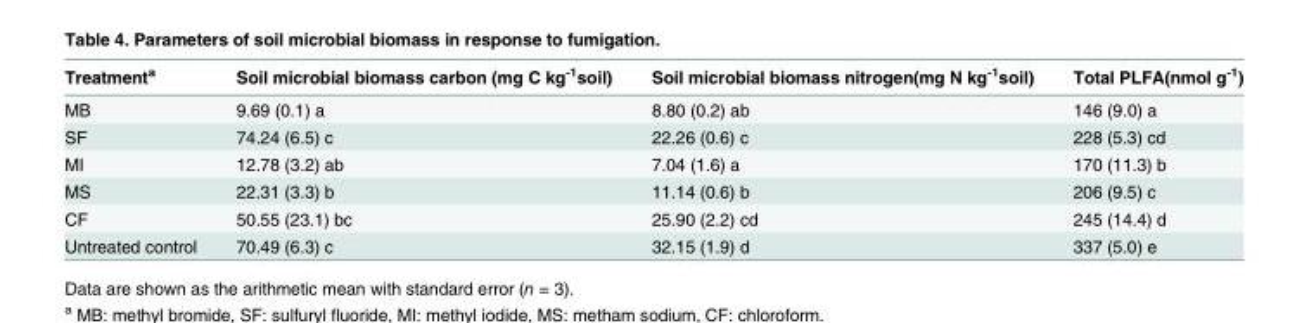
<table><thead><tr><td>Treatment<sup>a</sup></td><td>Soil microbial biomass carbon (mg C kg<sup>-1</sup>soil)</td><td>Soil microbial biomass nitrogen(mg N kg<sup>-1</sup>soil)</td><td>Total PLFA(nmol g<sup>-1</sup>)</td></tr></thead><tbody><tr><td>MB</td><td>9.69 (0.1) a</td><td>8.80 (0.2) ab</td><td>146 (9.0) a</td></tr><tr><td>SF</td><td>74.24 (6.5) c</td><td>22.26 (0.6) c</td><td>228 (5.3) cd</td></tr><tr><td>MI</td><td>12.78 (3.2) ab</td><td>7.04 (1.6) a</td><td>170 (11.3) b</td></tr><tr><td>MS</td><td>22.31 (3.3) b</td><td>11.14 (0.6) b</td><td>206 (9.5) c</td></tr><tr><td>CF</td><td>50.55 (23.1) bc</td><td>25.90 (2.2) cd</td><td>245 (14.4) d</td></tr><tr><td>Untreated control</td><td>70.49 (6.3) c</td><td>32.15 (1.9) d</td><td>337 (5.0) e</td></tr></tbody></table>